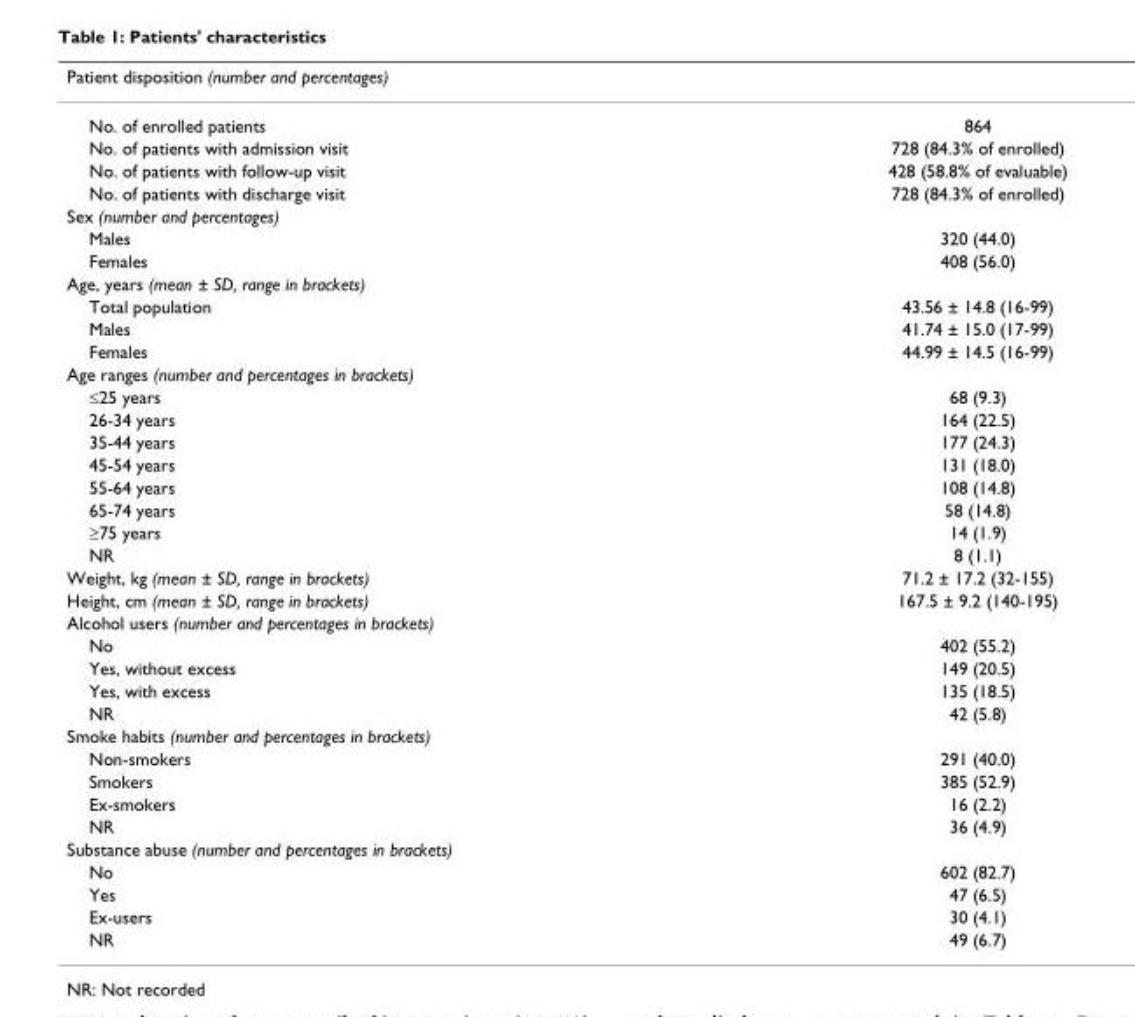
<table><thead><tr><td>Patient disposition (number and percentages)</td><td></td></tr></thead><tbody><tr><td>No. of enrolled patients</td><td>864</td></tr><tr><td>No. of patients with admission visit</td><td>728 (84.3% of enrolled)</td></tr><tr><td>No. of patients with follow-up visit</td><td>428 (58.8% of evaluable)</td></tr><tr><td>No. of patients with discharge visit</td><td>728 (84.3% of enrolled)</td></tr><tr><td colspan="2">Sex (number and percentages)</td></tr><tr><td>Males</td><td>320 (44.0)</td></tr><tr><td>Females</td><td>408 (56.0)</td></tr><tr><td colspan="2">Age, years (mean ± SD, range in brackets)</td></tr><tr><td>Total population</td><td>43.56 ± 14.8 (16-99)</td></tr><tr><td>Males</td><td>41.74 ± 15.0 (17-99)</td></tr><tr><td>Females</td><td>44.99 ± 14.5 (16-99)</td></tr><tr><td colspan="2">Age ranges (number and percentages in brackets)</td></tr><tr><td>≤25 years</td><td>68 (9.3)</td></tr><tr><td>26-34 years</td><td>164 (22.5)</td></tr><tr><td>35-44 years</td><td>177 (24.3)</td></tr><tr><td>45-54 years</td><td>131 (18.0)</td></tr><tr><td>55-64 years</td><td>108 (14.8)</td></tr><tr><td>65-74 years</td><td>58 (14.8)</td></tr><tr><td>≥75 years</td><td>14 (1.9)</td></tr><tr><td>NR</td><td>8 (1.1)</td></tr><tr><td>Weight, kg (mean ± SD, range in brackets)</td><td>71.2 ± 17.2 (32-155)</td></tr><tr><td>Height, cm (mean ± SD, range in brackets)</td><td>167.5 ± 9.2 (140-195)</td></tr><tr><td colspan="2">Alcohol users (number and percentages in brackets)</td></tr><tr><td>No</td><td>402 (55.2)</td></tr><tr><td>Yes, without excess</td><td>149 (20.5)</td></tr><tr><td>Yes, with excess</td><td>135 (18.5)</td></tr><tr><td>NR</td><td>42 (5.8)</td></tr><tr><td colspan="2">Smoke habits (number and percentages in brackets)</td></tr><tr><td>Non-smokers</td><td>291 (40.0)</td></tr><tr><td>Smokers</td><td>385 (52.9)</td></tr><tr><td>Ex-smokers</td><td>16 (2.2)</td></tr><tr><td>NR</td><td>36 (4.9)</td></tr><tr><td colspan="2">Substance abuse (number and percentages in brackets)</td></tr><tr><td>No</td><td>602 (82.7)</td></tr><tr><td>Yes</td><td>47 (6.5)</td></tr><tr><td>Ex-users</td><td>30 (4.1)</td></tr><tr><td>NR</td><td>49 (6.7)</td></tr></tbody></table>